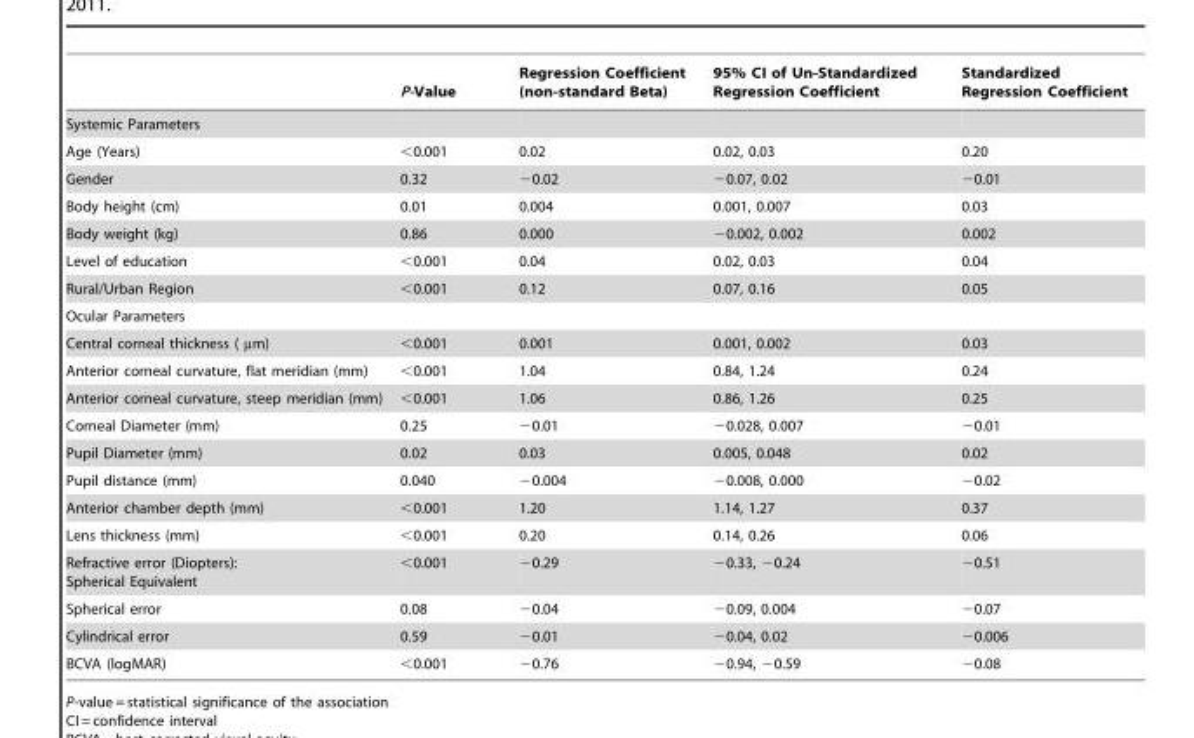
<table><thead><tr><td></td><td>P-Value</td><td>Regression Coefficient (non-standard Beta)</td><td>95% CI of Un-Standardized Regression Coefficient</td><td>Standardized Regression Coefficient</td></tr></thead><tbody><tr><td colspan="5">Systemic Parameters</td></tr><tr><td>Age (Years)</td><td>&lt;0.001</td><td>0.02</td><td>0.02, 0.03</td><td>0.20</td></tr><tr><td>Gender</td><td>0.32</td><td>−0.02</td><td>−0.07, 0.02</td><td>−0.01</td></tr><tr><td>Body height (cm)</td><td>0.01</td><td>0.004</td><td>0.001, 0.007</td><td>0.03</td></tr><tr><td>Body weight (kg)</td><td>0.86</td><td>0.000</td><td>−0.002, 0.002</td><td>0.002</td></tr><tr><td>Level of education</td><td>&lt;0.001</td><td>0.04</td><td>0.02, 0.03</td><td>0.04</td></tr><tr><td>Rural/Urban Region</td><td>&lt;0.001</td><td>0.12</td><td>0.07, 0.16</td><td>0.05</td></tr><tr><td colspan="5">Ocular Parameters</td></tr><tr><td>Central corneal thickness ( µm)</td><td>&lt;0.001</td><td>0.001</td><td>0.001, 0.002</td><td>0.03</td></tr><tr><td>Anterior corneal curvature, flat meridian (mm)</td><td>&lt;0.001</td><td>1.04</td><td>0.84, 1.24</td><td>0.24</td></tr><tr><td>Anterior corneal curvature, steep meridian (mm)</td><td>&lt;0.001</td><td>1.06</td><td>0.86, 1.26</td><td>0.25</td></tr><tr><td>Corneal Diameter (mm)</td><td>0.25</td><td>−0.01</td><td>−0.028, 0.007</td><td>−0.01</td></tr><tr><td>Pupil Diameter (mm)</td><td>0.02</td><td>0.03</td><td>0.005, 0.048</td><td>0.02</td></tr><tr><td>Pupil distance (mm)</td><td>0.040</td><td>−0.004</td><td>−0.008, 0.000</td><td>−0.02</td></tr><tr><td>Anterior chamber depth (mm)</td><td>&lt;0.001</td><td>1.20</td><td>1.14, 1.27</td><td>0.37</td></tr><tr><td>Lens thickness (mm)</td><td>&lt;0.001</td><td>0.20</td><td>0.14, 0.26</td><td>0.06</td></tr><tr><td>Refractive error (Diopters): Spherical Equivalent</td><td>&lt;0.001</td><td>−0.29</td><td>−0.33, −0.24</td><td>−0.51</td></tr><tr><td>Spherical error</td><td>0.08</td><td>−0.04</td><td>−0.09, 0.004</td><td>−0.07</td></tr><tr><td>Cylindrical error</td><td>0.59</td><td>−0.01</td><td>−0.04, 0.02</td><td>−0.006</td></tr><tr><td>BCVA (logMAR)</td><td>&lt;0.001</td><td>−0.76</td><td>−0.94, −0.59</td><td>−0.08</td></tr></tbody></table>